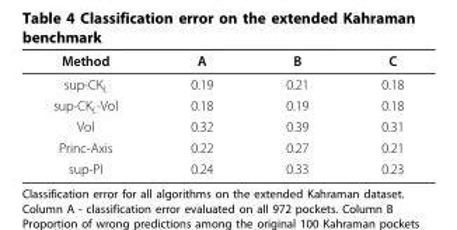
<table><thead><tr><td>Method</td><td>A</td><td>B</td><td>C</td></tr></thead><tbody><tr><td>sup-CK<sub>L</sub></td><td>0.19</td><td>0.21</td><td>0.18</td></tr><tr><td>sup-CK<sub>L</sub>-Vol</td><td>0.18</td><td>0.19</td><td>0.18</td></tr><tr><td>Vol</td><td>0.32</td><td>0.39</td><td>0.31</td></tr><tr><td>Princ-Axis</td><td>0.22</td><td>0.27</td><td>0.21</td></tr><tr><td>sup-PI</td><td>0.24</td><td>0.33</td><td>0.23</td></tr></tbody></table>